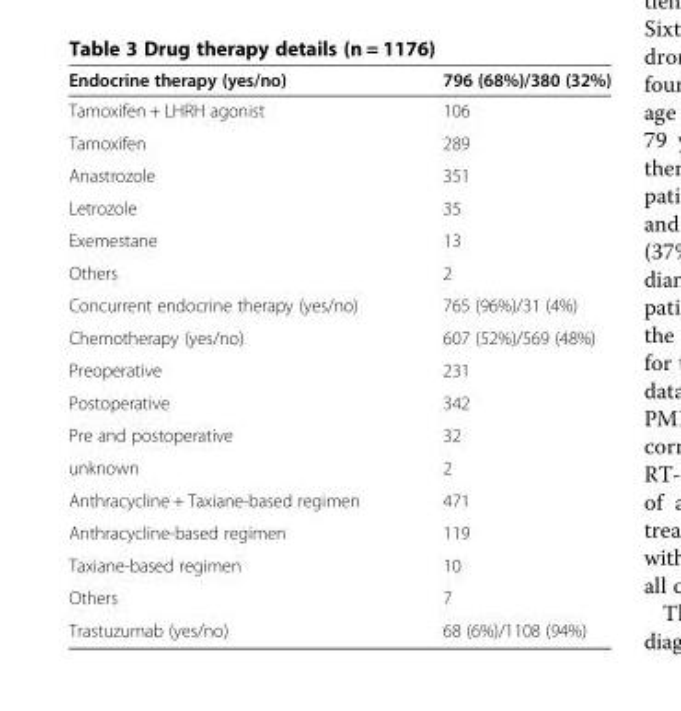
<table><thead><tr><td>Endocrine therapy (yes/no)</td><td>796 (68%)/380 (32%)</td></tr></thead><tbody><tr><td>Tamoxifen + LHRH agonist</td><td>106</td></tr><tr><td>Tamoxifen</td><td>289</td></tr><tr><td>Anastrozole</td><td>351</td></tr><tr><td>Letrozole</td><td>35</td></tr><tr><td>Exemestane</td><td>13</td></tr><tr><td>Others</td><td>2</td></tr><tr><td>Concurrent endocrine therapy (yes/no)</td><td>765 (96%)/31 (4%)</td></tr><tr><td>Chemotherapy (yes/no)</td><td>607 (52%)/569 (48%)</td></tr><tr><td>Preoperative</td><td>231</td></tr><tr><td>Postoperative</td><td>342</td></tr><tr><td>Pre and postoperative</td><td>32</td></tr><tr><td>unknown</td><td>2</td></tr><tr><td>Anthracycline + Taxiane-based regimen</td><td>471</td></tr><tr><td>Anthracycline-based regimen</td><td>119</td></tr><tr><td>Taxiane-based regimen</td><td>10</td></tr><tr><td>Others</td><td>7</td></tr><tr><td>Trastuzumab (yes/no)</td><td>68 (6%)/1108 (94%)</td></tr></tbody></table>